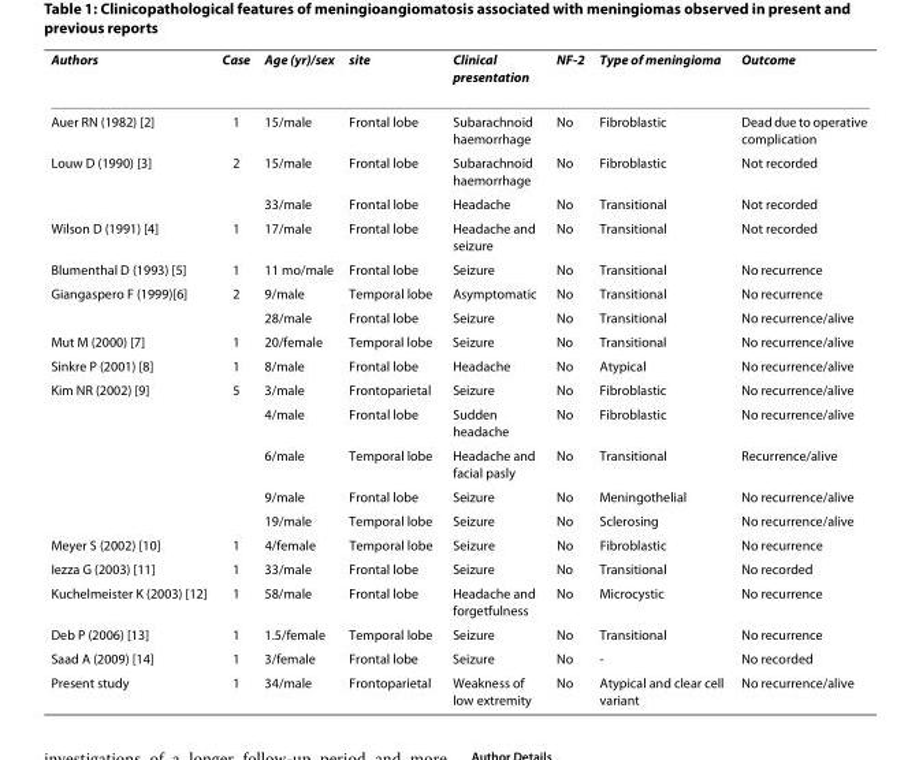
<table><thead><tr><td>Authors</td><td>Case</td><td>Age (yr)/sex</td><td>site</td><td>Clinical presentation</td><td>NF-2</td><td>Type of meningioma</td><td>Outcome</td></tr></thead><tbody><tr><td>Auer RN (1982) [2]</td><td>1</td><td>15/male</td><td>Frontal lobe</td><td>Subarachnoid haemorrhage</td><td>No</td><td>Fibroblastic</td><td>Dead due to operative complication</td></tr><tr><td rowspan="2">Louw D (1990) [3]</td><td>2</td><td>15/male</td><td>Frontal lobe</td><td>Subarachnoid haemorrhage</td><td>No</td><td>Fibroblastic</td><td>Not recorded</td></tr><tr><td></td><td>33/male</td><td>Frontal lobe</td><td>Headache</td><td>No</td><td>Transitional</td><td>Not recorded</td></tr><tr><td>Wilson D (1991) [4]</td><td>1</td><td>17/male</td><td>Frontal lobe</td><td>Headache and seizure</td><td>No</td><td>Transitional</td><td>Not recorded</td></tr><tr><td>Blumenthal D (1993) [5]</td><td>1</td><td>11 mo/male</td><td>Frontal lobe</td><td>Seizure</td><td>No</td><td>Transitional</td><td>No recurrence</td></tr><tr><td rowspan="2">Giangaspero F (1999)[6]</td><td>2</td><td>9/male</td><td>Temporal lobe</td><td>Asymptomatic</td><td>No</td><td>Transitional</td><td>No recurrence</td></tr><tr><td></td><td>28/male</td><td>Frontal lobe</td><td>Seizure</td><td>No</td><td>Transitional</td><td>No recurrence/alive</td></tr><tr><td>Mut M (2000) [7]</td><td>1</td><td>20/female</td><td>Temporal lobe</td><td>Seizure</td><td>No</td><td>Transitional</td><td>No recurrence/alive</td></tr><tr><td>Sinkre P (2001) [8]</td><td>1</td><td>8/male</td><td>Frontal lobe</td><td>Headache</td><td>No</td><td>Atypical</td><td>No recurrence/alive</td></tr><tr><td rowspan="5">Kim NR (2002) [9]</td><td>5</td><td>3/male</td><td>Frontoparietal</td><td>Seizure</td><td>No</td><td>Fibroblastic</td><td>No recurrence/alive</td></tr><tr><td></td><td>4/male</td><td>Frontal lobe</td><td>Sudden headache</td><td>No</td><td>Fibroblastic</td><td>No recurrence/alive</td></tr><tr><td></td><td>6/male</td><td>Temporal lobe</td><td>Headache and facial pasly</td><td>No</td><td>Transitional</td><td>Recurrence/alive</td></tr><tr><td></td><td>9/male</td><td>Frontal lobe</td><td>Seizure</td><td>No</td><td>Meningothelial</td><td>No recurrence/alive</td></tr><tr><td></td><td>19/male</td><td>Temporal lobe</td><td>Seizure</td><td>No</td><td>Sclerosing</td><td>No recurrence/alive</td></tr><tr><td>Meyer S (2002) [10]</td><td>1</td><td>4/female</td><td>Temporal lobe</td><td>Seizure</td><td>No</td><td>Fibroblastic</td><td>No recurrence</td></tr><tr><td>Iezza G (2003) [11]</td><td>1</td><td>33/male</td><td>Frontal lobe</td><td>Seizure</td><td>No</td><td>Transitional</td><td>No recorded</td></tr><tr><td>Kuchelmeister K (2003) [12]</td><td>1</td><td>58/male</td><td>Frontal lobe</td><td>Headache and forgetfulness</td><td>No</td><td>Microcystic</td><td>No recurrence</td></tr><tr><td>Deb P (2006) [13]</td><td>1</td><td>1.5/female</td><td>Temporal lobe</td><td>Seizure</td><td>No</td><td>Transitional</td><td>No recurrence</td></tr><tr><td>Saad A (2009) [14]</td><td>1</td><td>3/female</td><td>Frontal lobe</td><td>Seizure</td><td>No</td><td>-</td><td>No recorded</td></tr><tr><td>Present study</td><td>1</td><td>34/male</td><td>Frontoparietal</td><td>Weakness of low extremity</td><td>No</td><td>Atypical and clear cell variant</td><td>No recurrence/alive</td></tr></tbody></table>